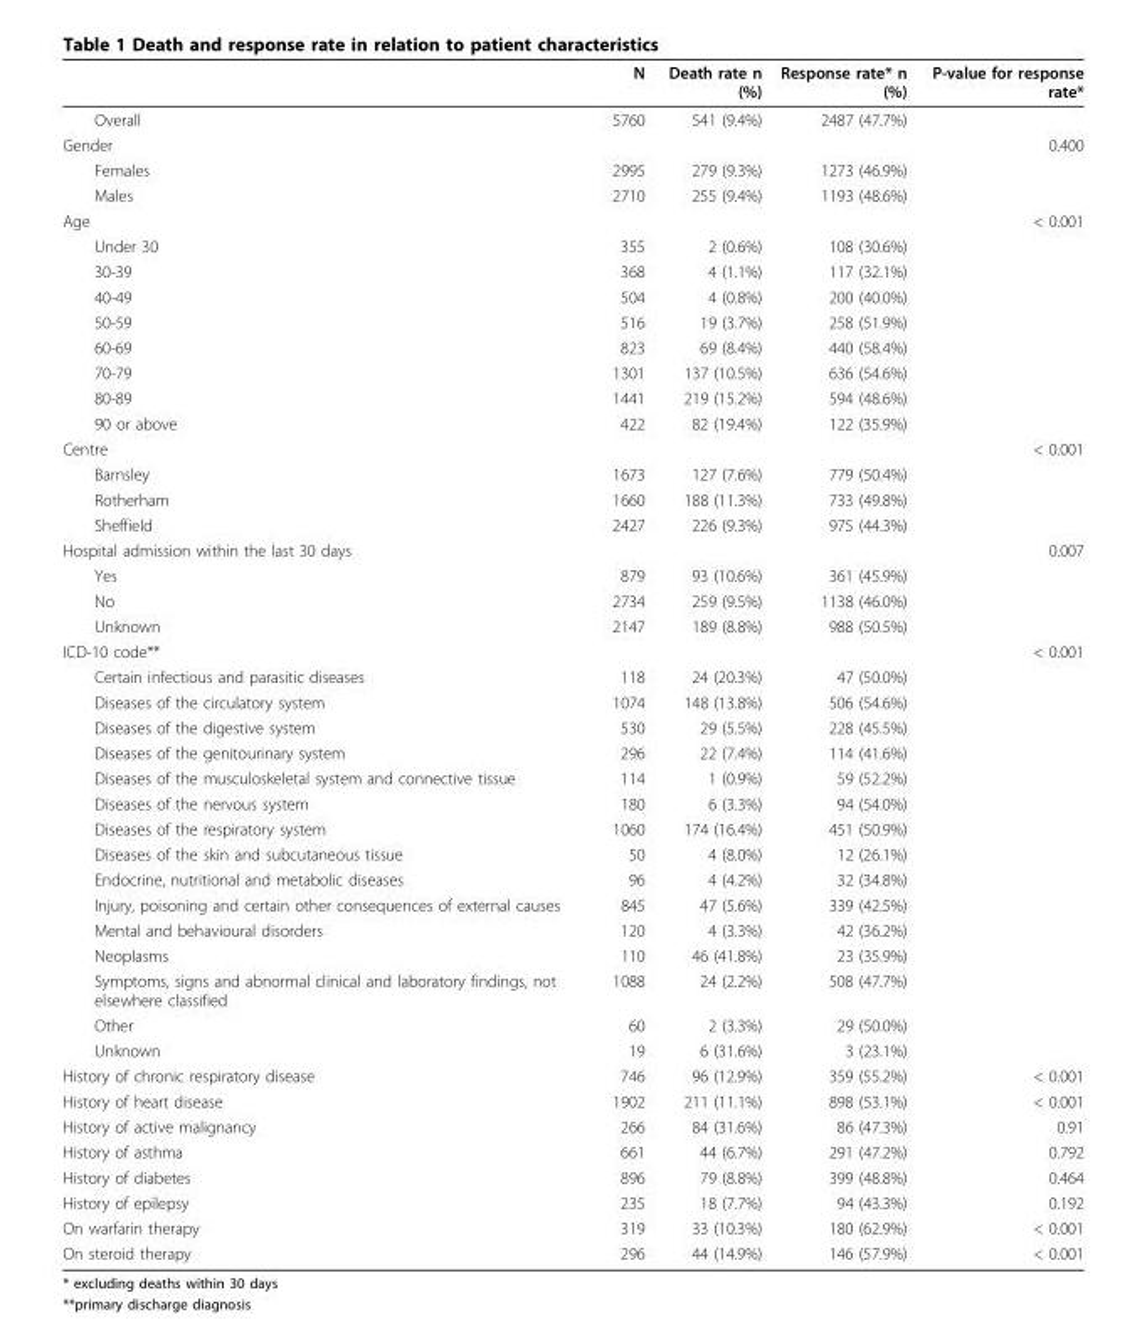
<table><thead><tr><td></td><td>N</td><td>Death rate n (%)</td><td>Response rate* n (%)</td><td>P-value for response rate*</td></tr></thead><tbody><tr><td>Overall</td><td>5760</td><td>541 (9.4%)</td><td>2487 (47.7%)</td><td></td></tr><tr><td>Gender</td><td></td><td></td><td></td><td>0.400</td></tr><tr><td>Females</td><td>2995</td><td>279 (9.3%)</td><td>1273 (46.9%)</td><td></td></tr><tr><td>Males</td><td>2710</td><td>255 (9.4%)</td><td>1193 (48.6%)</td><td></td></tr><tr><td>Age</td><td></td><td></td><td></td><td>&lt; 0.001</td></tr><tr><td>Under 30</td><td>355</td><td>2 (0.6%)</td><td>108 (30.6%)</td><td></td></tr><tr><td>30-39</td><td>368</td><td>4 (1.1%)</td><td>117 (32.1%)</td><td></td></tr><tr><td>40-49</td><td>504</td><td>4 (0.8%)</td><td>200 (40.0%)</td><td></td></tr><tr><td>50-59</td><td>516</td><td>19 (3.7%)</td><td>258 (51.9%)</td><td></td></tr><tr><td>60-69</td><td>823</td><td>69 (8.4%)</td><td>440 (58.4%)</td><td></td></tr><tr><td>70-79</td><td>1301</td><td>137 (10.5%)</td><td>636 (54.6%)</td><td></td></tr><tr><td>80-89</td><td>1441</td><td>219 (15.2%)</td><td>594 (48.6%)</td><td></td></tr><tr><td>90 or above</td><td>422</td><td>82 (19.4%)</td><td>122 (35.9%)</td><td></td></tr><tr><td>Centre</td><td></td><td></td><td></td><td>&lt; 0.001</td></tr><tr><td>Barnsley</td><td>1673</td><td>127 (7.6%)</td><td>779 (50.4%)</td><td></td></tr><tr><td>Rotherham</td><td>1660</td><td>188 (11.3%)</td><td>733 (49.8%)</td><td></td></tr><tr><td>Sheffield</td><td>2427</td><td>226 (9.3%)</td><td>975 (44.3%)</td><td></td></tr><tr><td>Hospital admission within the last 30 days</td><td></td><td></td><td></td><td>0.007</td></tr><tr><td>Yes</td><td>879</td><td>93 (10.6%)</td><td>361 (45.9%)</td><td></td></tr><tr><td>No</td><td>2734</td><td>259 (9.5%)</td><td>1138 (46.0%)</td><td></td></tr><tr><td>Unknown</td><td>2147</td><td>189 (8.8%)</td><td>988 (50.5%)</td><td></td></tr><tr><td>ICD-10 code**</td><td></td><td></td><td></td><td>&lt; 0.001</td></tr><tr><td>Certain infectious and parasitic diseases</td><td>118</td><td>24 (20.3%)</td><td>47 (50.0%)</td><td></td></tr><tr><td>Diseases of the circulatory system</td><td>1074</td><td>148 (13.8%)</td><td>506 (54.6%)</td><td></td></tr><tr><td>Diseases of the digestive system</td><td>530</td><td>29 (5.5%)</td><td>228 (45.5%)</td><td></td></tr><tr><td>Diseases of the genitourinary system</td><td>296</td><td>22 (7.4%)</td><td>114 (41.6%)</td><td></td></tr><tr><td>Diseases of the musculoskeletal system and connective tissue</td><td>114</td><td>1 (0.9%)</td><td>59 (52.2%)</td><td></td></tr><tr><td>Diseases of the nervous system</td><td>180</td><td>6 (3.3%)</td><td>94 (54.0%)</td><td></td></tr><tr><td>Diseases of the respiratory system</td><td>1060</td><td>174 (16.4%)</td><td>451 (50.9%)</td><td></td></tr><tr><td>Diseases of the skin and subcutaneous tissue</td><td>50</td><td>4 (8.0%)</td><td>12 (26.1%)</td><td></td></tr><tr><td>Endocrine, nutritional and metabolic diseases</td><td>96</td><td>4 (4.2%)</td><td>32 (34.8%)</td><td></td></tr><tr><td>Injury, poisoning and certain other consequences of external causes</td><td>845</td><td>47 (5.6%)</td><td>339 (42.5%)</td><td></td></tr><tr><td>Mental and behavioural disorders</td><td>120</td><td>4 (3.3%)</td><td>42 (36.2%)</td><td></td></tr><tr><td>Neoplasms</td><td>110</td><td>46 (41.8%)</td><td>23 (35.9%)</td><td></td></tr><tr><td>Symptoms, signs and abnormal clinical and laboratory findings, not elsewhere classified</td><td>1088</td><td>24 (2.2%)</td><td>508 (47.7%)</td><td></td></tr><tr><td>Other</td><td>60</td><td>2 (3.3%)</td><td>29 (50.0%)</td><td></td></tr><tr><td>Unknown</td><td>19</td><td>6 (31.6%)</td><td>3 (23.1%)</td><td></td></tr><tr><td>History of chronic respiratory disease</td><td>746</td><td>96 (12.9%)</td><td>359 (55.2%)</td><td>&lt; 0.001</td></tr><tr><td>History of heart disease</td><td>1902</td><td>211 (11.1%)</td><td>898 (53.1%)</td><td>&lt; 0.001</td></tr><tr><td>History of active malignancy</td><td>266</td><td>84 (31.6%)</td><td>86 (47.3%)</td><td>0.91</td></tr><tr><td>History of asthma</td><td>661</td><td>44 (6.7%)</td><td>291 (47.2%)</td><td>0.792</td></tr><tr><td>History of diabetes</td><td>896</td><td>79 (8.8%)</td><td>399 (48.8%)</td><td>0.464</td></tr><tr><td>History of epilepsy</td><td>235</td><td>18 (7.7%)</td><td>94 (43.3%)</td><td>0.192</td></tr><tr><td>On warfarin therapy</td><td>319</td><td>33 (10.3%)</td><td>180 (62.9%)</td><td>&lt; 0.001</td></tr><tr><td>On steroid therapy</td><td>296</td><td>44 (14.9%)</td><td>146 (57.9%)</td><td>&lt; 0.001</td></tr></tbody></table>